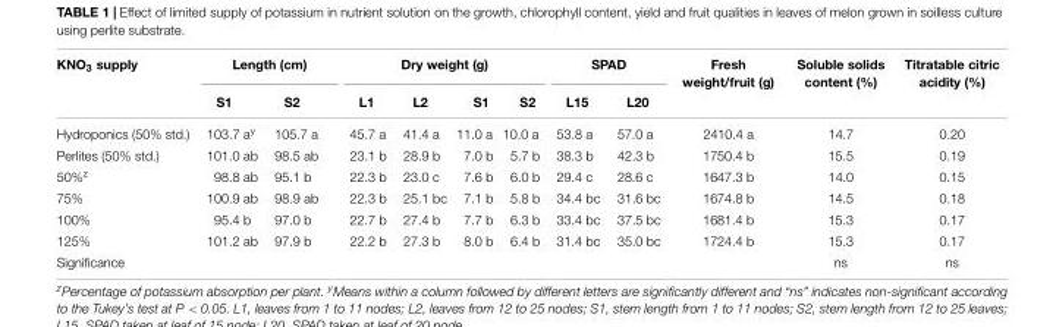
<table><thead><tr><td rowspan="2">KNO<sub>3</sub> supply</td><td colspan="2">Length (cm)</td><td colspan="4">Dry weight (g)</td><td colspan="2">SPAD</td><td rowspan="2">Fresh weight/fruit (g)</td><td rowspan="2">Soluble solids content (%)</td><td rowspan="2">Titratable citric acidity (%)</td></tr><tr><td>S1</td><td>S2</td><td>L1</td><td>L2</td><td>S1</td><td>S2</td><td>L15</td><td>L20</td></tr></thead><tbody><tr><td>Hydroponics (50% std.)</td><td>103.7 a<sup>y</sup></td><td>105.7 a</td><td>45.7 a</td><td>41.4 a</td><td>11.0 a</td><td>10.0 a</td><td>53.8 a</td><td>57.0 a</td><td>2410.4 a</td><td>14.7</td><td>0.20</td></tr><tr><td>Perlites (50% std.)</td><td>101.0 ab</td><td>98.5 ab</td><td>23.1 b</td><td>28.9 b</td><td>7.0 b</td><td>5.7 b</td><td>38.3 b</td><td>42.3 b</td><td>1750.4 b</td><td>15.5</td><td>0.19</td></tr><tr><td>50%<sup>z</sup></td><td>98.8 ab</td><td>95.1 b</td><td>22.3 b</td><td>23.0 c</td><td>7.6 b</td><td>6.0 b</td><td>29.4 c</td><td>28.6 c</td><td>1647.3 b</td><td>14.0</td><td>0.15</td></tr><tr><td>75%</td><td>100.9 ab</td><td>98.9 ab</td><td>22.3 b</td><td>25.1 bc</td><td>7.1 b</td><td>5.8 b</td><td>34.4 bc</td><td>31.6 bc</td><td>1674.8 b</td><td>14.5</td><td>0.18</td></tr><tr><td>100%</td><td>95.4 b</td><td>97.0 b</td><td>22.7 b</td><td>27.4 b</td><td>7.7 b</td><td>6.3 b</td><td>33.4 bc</td><td>37.5 bc</td><td>1681.4 b</td><td>15.3</td><td>0.17</td></tr><tr><td>125%</td><td>101.2 ab</td><td>97.9 b</td><td>22.2 b</td><td>27.3 b</td><td>8.0 b</td><td>6.4 b</td><td>31.4 bc</td><td>35.0 bc</td><td>1724.4 b</td><td>15.3</td><td>0.17</td></tr><tr><td>Significance</td><td></td><td></td><td></td><td></td><td></td><td></td><td></td><td></td><td></td><td>ns</td><td>ns</td></tr></tbody></table>